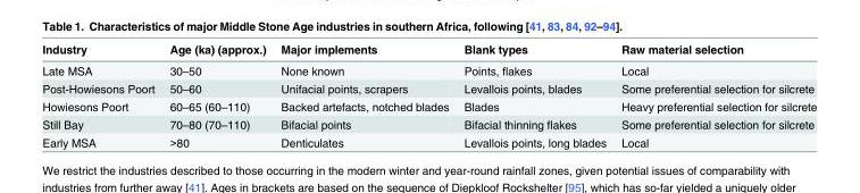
<table><thead><tr><td>Industry</td><td>Age (ka) (approx.)</td><td>Major implements</td><td>Blank types</td><td>Raw material selection</td></tr></thead><tbody><tr><td>Late MSA</td><td>30–50</td><td>None known</td><td>Points, flakes</td><td>Local</td></tr><tr><td>Post-Howiesons Poort</td><td>50–60</td><td>Unifacial points, scrapers</td><td>Levallois points, blades</td><td>Some preferential selection for silcrete</td></tr><tr><td>Howiesons Poort</td><td>60–65 (60–110)</td><td>Backed artefacts, notched blades</td><td>Blades</td><td>Heavy preferential selection for silcrete</td></tr><tr><td>Still Bay</td><td>70–80 (70–110)</td><td>Bifacial points</td><td>Bifacial thinning flakes</td><td>Some preferential selection for silcrete</td></tr><tr><td>Early MSA</td><td>&gt;80</td><td>Denticulates</td><td>Levallois points, long blades</td><td>Local</td></tr></tbody></table>